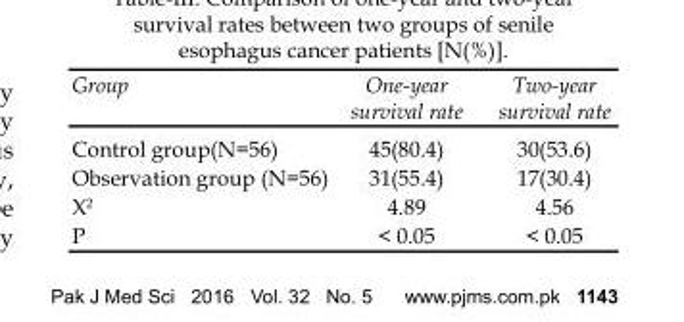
<table><thead><tr><td>Group</td><td>One-year survival rate</td><td>Two-year survival rate</td></tr></thead><tbody><tr><td>Control group(N=56)</td><td>45(80.4)</td><td>30(53.6)</td></tr><tr><td>Observation group (N=56)</td><td>31(55.4)</td><td>17(30.4)</td></tr><tr><td>X<sup>2</sup></td><td>4.89</td><td>4.56</td></tr><tr><td>P</td><td>&lt; 0.05</td><td>&lt; 0.05</td></tr></tbody></table>